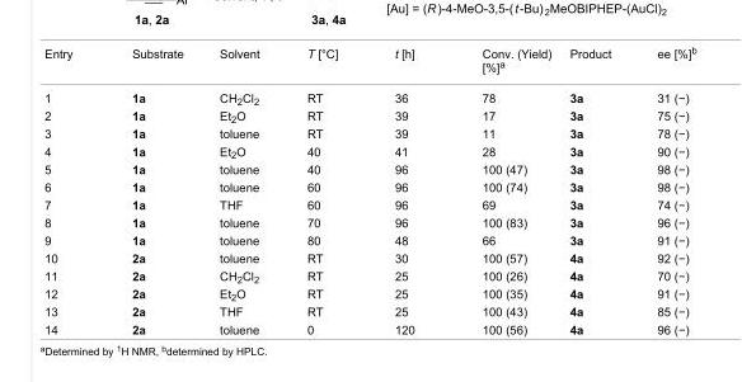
<table><tbody><tr><td>Entry</td><td>Substrate</td><td>Solvent</td><td>T [°C]</td><td>t [h]</td><td>Conv. (Yield) [%]<sup>a</sup></td><td>Product</td><td>ee [%]<sup>b</sup></td></tr><tr><td>1</td><td>1a</td><td>CH<sub>2</sub>Cl<sub>2</sub></td><td>RT</td><td>36</td><td>78</td><td>3a</td><td>31 (−)</td></tr><tr><td>2</td><td>1a</td><td>Et<sub>2</sub>O</td><td>RT</td><td>39</td><td>17</td><td>3a</td><td>75 (−)</td></tr><tr><td>3</td><td>1a</td><td>toluene</td><td>RT</td><td>39</td><td>11</td><td>3a</td><td>78 (−)</td></tr><tr><td>4</td><td>1a</td><td>Et<sub>2</sub>O</td><td>40</td><td>41</td><td>28</td><td>3a</td><td>90 (−)</td></tr><tr><td>5</td><td>1a</td><td>toluene</td><td>40</td><td>96</td><td>100 (47)</td><td>3a</td><td>98 (−)</td></tr><tr><td>6</td><td>1a</td><td>toluene</td><td>60</td><td>96</td><td>100 (74)</td><td>3a</td><td>98 (−)</td></tr><tr><td>7</td><td>1a</td><td>THF</td><td>60</td><td>96</td><td>69</td><td>3a</td><td>74 (−)</td></tr><tr><td>8</td><td>1a</td><td>toluene</td><td>70</td><td>96</td><td>100 (83)</td><td>3a</td><td>96 (−)</td></tr><tr><td>9</td><td>1a</td><td>toluene</td><td>80</td><td>48</td><td>66</td><td>3a</td><td>91 (−)</td></tr><tr><td>10</td><td>2a</td><td>toluene</td><td>RT</td><td>30</td><td>100 (57)</td><td>4a</td><td>92 (−)</td></tr><tr><td>11</td><td>2a</td><td>CH<sub>2</sub>Cl<sub>2</sub></td><td>RT</td><td>25</td><td>100 (26)</td><td>4a</td><td>70 (−)</td></tr><tr><td>12</td><td>2a</td><td>Et<sub>2</sub>O</td><td>RT</td><td>25</td><td>100 (35)</td><td>4a</td><td>91 (−)</td></tr><tr><td>13</td><td>2a</td><td>THF</td><td>RT</td><td>25</td><td>100 (43)</td><td>4a</td><td>85 (−)</td></tr><tr><td>14</td><td>2a</td><td>toluene</td><td>0</td><td>120</td><td>100 (56)</td><td>4a</td><td>96 (−)</td></tr></tbody></table>